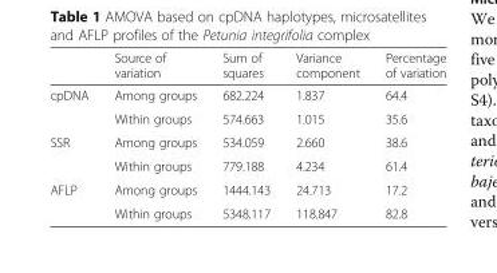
<table><thead><tr><td></td><td>Source of variation</td><td>Sum of squares</td><td>Variance component</td><td>Percentage of variation</td></tr></thead><tbody><tr><td rowspan="2">cpDNA</td><td>Among groups</td><td>682.224</td><td>1.837</td><td>64.4</td></tr><tr><td>Within groups</td><td>574.663</td><td>1.015</td><td>35.6</td></tr><tr><td rowspan="2">SSR</td><td>Among groups</td><td>534.059</td><td>2.660</td><td>38.6</td></tr><tr><td>Within groups</td><td>779.188</td><td>4.234</td><td>61.4</td></tr><tr><td rowspan="2">AFLP</td><td>Among groups</td><td>1444.143</td><td>24.713</td><td>17.2</td></tr><tr><td>Within groups</td><td>5348.117</td><td>118.847</td><td>82.8</td></tr></tbody></table>